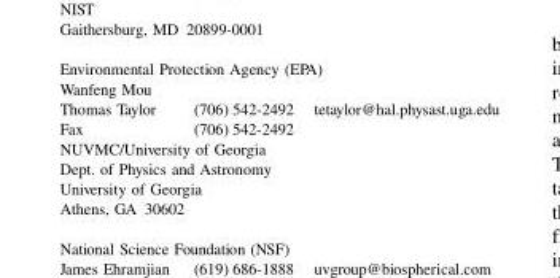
<table><tbody><tr><td colspan="3">Environmental Protection Agency (EPA)</td></tr><tr><td colspan="3">Wanfeng Mou</td></tr><tr><td>Thomas Taylor</td><td>(706) 542-2492</td><td>tetaylor@hal.physast.uga.edu</td></tr><tr><td>Fax</td><td>(706) 542-2492</td><td></td></tr><tr><td colspan="3">NUVMC/University of Georgia</td></tr><tr><td colspan="3">Dept. of Physics and Astronomy</td></tr><tr><td colspan="3">University of Georgia</td></tr><tr><td colspan="2">Athens, GA 30602</td><td></td></tr></tbody></table>